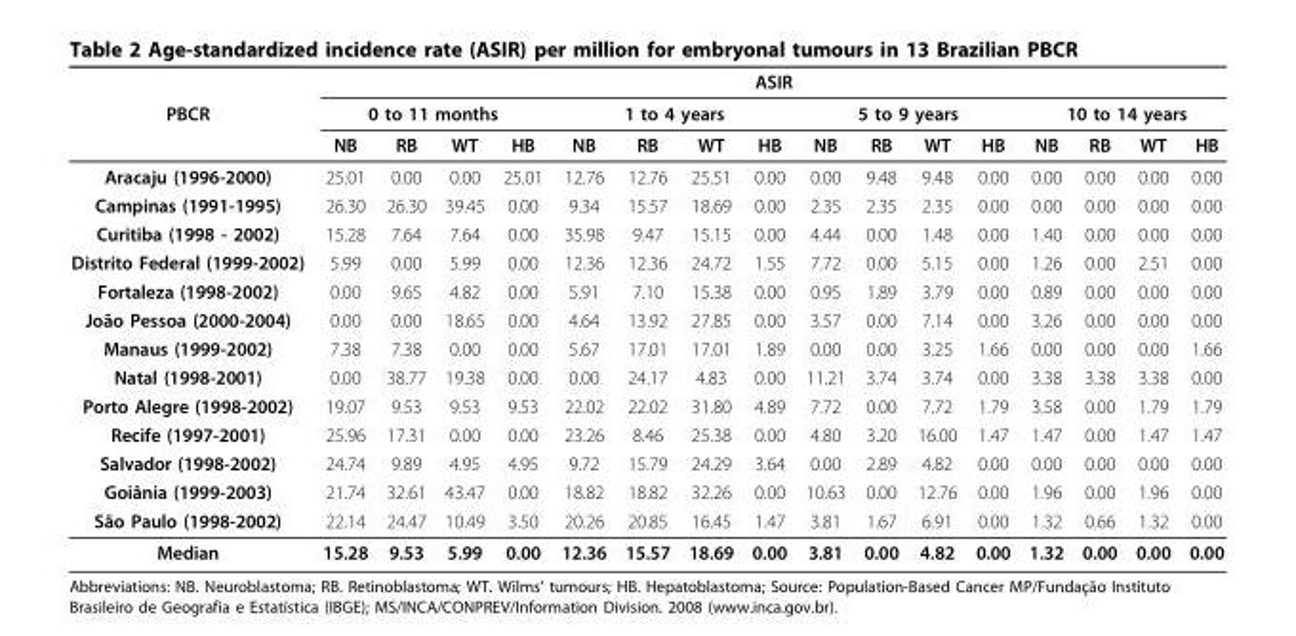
<table><thead><tr><td rowspan="3">PBCR</td><td colspan="16">ASIR</td></tr><tr><td colspan="4">0 to 11 months</td><td colspan="4">1 to 4 years</td><td colspan="4">5 to 9 years</td><td colspan="4">10 to 14 years</td></tr><tr><td>NB</td><td>RB</td><td>WT</td><td>HB</td><td>NB</td><td>RB</td><td>WT</td><td>HB</td><td>NB</td><td>RB</td><td>WT</td><td>HB</td><td>NB</td><td>RB</td><td>WT</td><td>HB</td></tr></thead><tbody><tr><td>Aracaju (1996-2000)</td><td>25.01</td><td>0.00</td><td>0.00</td><td>25.01</td><td>12.76</td><td>12.76</td><td>25.51</td><td>0.00</td><td>0.00</td><td>9.48</td><td>9.48</td><td>0.00</td><td>0.00</td><td>0.00</td><td>0.00</td><td>0.00</td></tr><tr><td>Campinas (1991-1995)</td><td>26.30</td><td>26.30</td><td>39.45</td><td>0.00</td><td>9.34</td><td>15.57</td><td>18.69</td><td>0.00</td><td>2.35</td><td>2.35</td><td>2.35</td><td>0.00</td><td>0.00</td><td>0.00</td><td>0.00</td><td>0.00</td></tr><tr><td>Curitiba (1998 - 2002)</td><td>15.28</td><td>7.64</td><td>7.64</td><td>0.00</td><td>35.98</td><td>9.47</td><td>15.15</td><td>0.00</td><td>4.44</td><td>0.00</td><td>1.48</td><td>0.00</td><td>1.40</td><td>0.00</td><td>0.00</td><td>0.00</td></tr><tr><td>Distrito Federal (1999-2002)</td><td>5.99</td><td>0.00</td><td>5.99</td><td>0.00</td><td>12.36</td><td>12.36</td><td>24.72</td><td>1.55</td><td>7.72</td><td>0.00</td><td>5.15</td><td>0.00</td><td>1.26</td><td>0.00</td><td>2.51</td><td>0.00</td></tr><tr><td>Fortaleza (1998-2002)</td><td>0.00</td><td>9.65</td><td>4.82</td><td>0.00</td><td>5.91</td><td>7.10</td><td>15.38</td><td>0.00</td><td>0.95</td><td>1.89</td><td>3.79</td><td>0.00</td><td>0.89</td><td>0.00</td><td>0.00</td><td>0.00</td></tr><tr><td>João Pessoa (2000-2004)</td><td>0.00</td><td>0.00</td><td>18.65</td><td>0.00</td><td>4.64</td><td>13.92</td><td>27.85</td><td>0.00</td><td>3.57</td><td>0.00</td><td>7.14</td><td>0.00</td><td>3.26</td><td>0.00</td><td>0.00</td><td>0.00</td></tr><tr><td>Manaus (1999-2002)</td><td>7.38</td><td>7.38</td><td>0.00</td><td>0.00</td><td>5.67</td><td>17.01</td><td>17.01</td><td>1.89</td><td>0.00</td><td>0.00</td><td>3.25</td><td>1.66</td><td>0.00</td><td>0.00</td><td>0.00</td><td>1.66</td></tr><tr><td>Natal (1998-2001)</td><td>0.00</td><td>38.77</td><td>19.38</td><td>0.00</td><td>0.00</td><td>24.17</td><td>4.83</td><td>0.00</td><td>11.21</td><td>3.74</td><td>3.74</td><td>0.00</td><td>3.38</td><td>3.38</td><td>3.38</td><td>0.00</td></tr><tr><td>Porto Alegre (1998-2002)</td><td>19.07</td><td>9.53</td><td>9.53</td><td>9.53</td><td>22.02</td><td>22.02</td><td>31.80</td><td>4.89</td><td>7.72</td><td>0.00</td><td>7.72</td><td>1.79</td><td>3.58</td><td>0.00</td><td>1.79</td><td>1.79</td></tr><tr><td>Recife (1997-2001)</td><td>25.96</td><td>17.31</td><td>0.00</td><td>0.00</td><td>23.26</td><td>8.46</td><td>25.38</td><td>0.00</td><td>4.80</td><td>3.20</td><td>16.00</td><td>1.47</td><td>1.47</td><td>0.00</td><td>1.47</td><td>1.47</td></tr><tr><td>Salvador (1998-2002)</td><td>24.74</td><td>9.89</td><td>4.95</td><td>4.95</td><td>9.72</td><td>15.79</td><td>24.29</td><td>3.64</td><td>0.00</td><td>2.89</td><td>4.82</td><td>0.00</td><td>0.00</td><td>0.00</td><td>0.00</td><td>0.00</td></tr><tr><td>Goiânia (1999-2003)</td><td>21.74</td><td>32.61</td><td>43.47</td><td>0.00</td><td>18.82</td><td>18.82</td><td>32.26</td><td>0.00</td><td>10.63</td><td>0.00</td><td>12.76</td><td>0.00</td><td>1.96</td><td>0.00</td><td>1.96</td><td>0.00</td></tr><tr><td>São Paulo (1998-2002)</td><td>22.14</td><td>24.47</td><td>10.49</td><td>3.50</td><td>20.26</td><td>20.85</td><td>16.45</td><td>1.47</td><td>3.81</td><td>1.67</td><td>6.91</td><td>0.00</td><td>1.32</td><td>0.66</td><td>1.32</td><td>0.00</td></tr><tr><td>Median</td><td>15.28</td><td>9.53</td><td>5.99</td><td>0.00</td><td>12.36</td><td>15.57</td><td>18.69</td><td>0.00</td><td>3.81</td><td>0.00</td><td>4.82</td><td>0.00</td><td>1.32</td><td>0.00</td><td>0.00</td><td>0.00</td></tr></tbody></table>